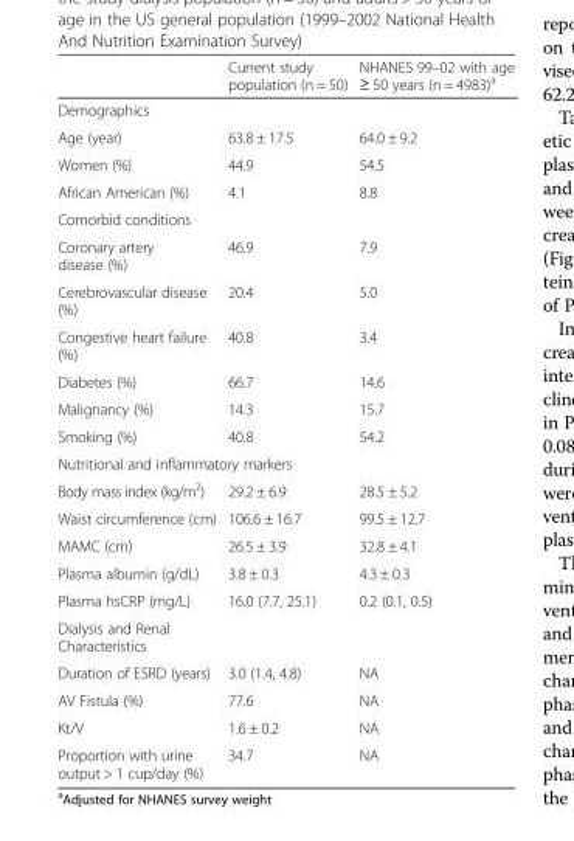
<table><thead><tr><td></td><td>Current study population (n = 50)</td><td>NHANES 99–02 with age ≥ 50 years (n = 4983)<sup>a</sup></td></tr></thead><tbody><tr><td colspan="3">Demographics</td></tr><tr><td>Age (year)</td><td>63.8 ± 17.5</td><td>64.0 ± 9.2</td></tr><tr><td>Women (%)</td><td>44.9</td><td>54.5</td></tr><tr><td>African American (%)</td><td>4.1</td><td>8.8</td></tr><tr><td colspan="3">Comorbid conditions</td></tr><tr><td>Coronary artery disease (%)</td><td>46.9</td><td>7.9</td></tr><tr><td>Cerebrovascular disease (%)</td><td>20.4</td><td>5.0</td></tr><tr><td>Congestive heart failure (%)</td><td>40.8</td><td>3.4</td></tr><tr><td>Diabetes (%)</td><td>66.7</td><td>14.6</td></tr><tr><td>Malignancy (%)</td><td>14.3</td><td>15.7</td></tr><tr><td>Smoking (%)</td><td>40.8</td><td>54.2</td></tr><tr><td colspan="3">Nutritional and inflammatory markers</td></tr><tr><td>Body mass index (kg/m<sup>2</sup>)</td><td>29.2 ± 6.9</td><td>28.5 ± 5.2</td></tr><tr><td>Waist circumference (cm)</td><td>106.6 ± 16.7</td><td>99.5 ± 12.7</td></tr><tr><td>MAMC (cm)</td><td>26.5 ± 3.9</td><td>32.8 ± 4.1</td></tr><tr><td>Plasma albumin (g/dL)</td><td>3.8 ± 0.3</td><td>4.3 ± 0.3</td></tr><tr><td>Plasma hsCRP (mg/L)</td><td>16.0 (7.7, 25.1)</td><td>0.2 (0.1, 0.5)</td></tr><tr><td colspan="3">Dialysis and Renal Characteristics</td></tr><tr><td>Duration of ESRD (years)</td><td>3.0 (1.4, 4.8)</td><td>NA</td></tr><tr><td>AV Fistula (%)</td><td>77.6</td><td>NA</td></tr><tr><td>Kt/V</td><td>1.6 ± 0.2</td><td>NA</td></tr><tr><td>Proportion with urine output &gt; 1 cup/day (%)</td><td>34.7</td><td>NA</td></tr></tbody></table>